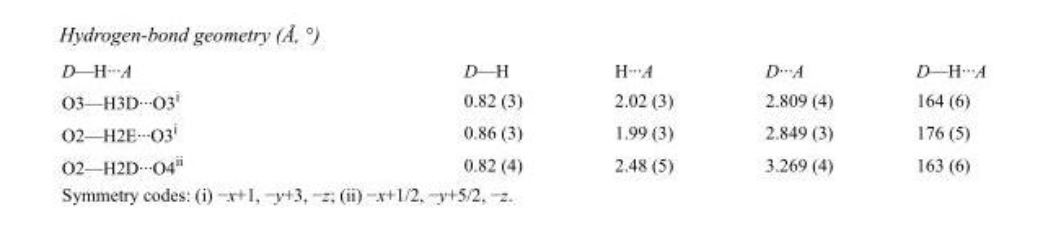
<table><tbody><tr><td>D—H···A</td><td>D—H</td><td>H···A</td><td>D···A</td><td>D—H···A</td></tr><tr><td>O3—H3D···O3<sup>i</sup></td><td>0.82 (3)</td><td>2.02 (3)</td><td>2.809 (4)</td><td>164 (6)</td></tr><tr><td>O2—H2E···O3<sup>i</sup></td><td>0.86 (3)</td><td>1.99 (3)</td><td>2.849 (3)</td><td>176 (5)</td></tr><tr><td>O2—H2D···O4<sup>ii</sup></td><td>0.82 (4)</td><td>2.48 (5)</td><td>3.269 (4)</td><td>163 (6)</td></tr></tbody></table>